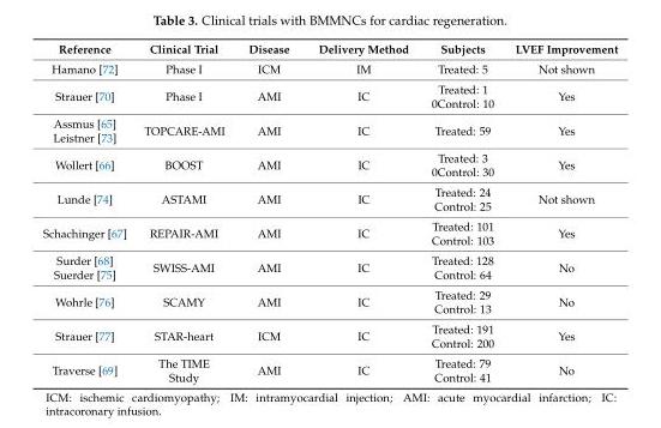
<table><thead><tr><td>Reference</td><td>Clinical Trial</td><td>Disease</td><td>Delivery Method</td><td>Subjects</td><td>LVEF Improvement</td></tr></thead><tbody><tr><td>Hamano [72]</td><td>Phase I</td><td>ICM</td><td>IM</td><td>Treated: 5</td><td>Not shown</td></tr><tr><td>Strauer [70]</td><td>Phase I</td><td>AMI</td><td>IC</td><td>Treated: 1 0Control: 10</td><td>Yes</td></tr><tr><td>Assmus [65] Leistner [73]</td><td>TOPCARE-AMI</td><td>AMI</td><td>IC</td><td>Treated: 59</td><td>Yes</td></tr><tr><td>Wollert [66]</td><td>BOOST</td><td>AMI</td><td>IC</td><td>Treated: 3 0Control: 30</td><td>Yes</td></tr><tr><td>Lunde [74]</td><td>ASTAMI</td><td>AMI</td><td>IC</td><td>Treated: 24 Control: 25</td><td>Not shown</td></tr><tr><td>Schachinger [67]</td><td>REPAIR-AMI</td><td>AMI</td><td>IC</td><td>Treated: 101 Control: 103</td><td>Yes</td></tr><tr><td>Surder [68] Suerder [75]</td><td>SWISS-AMI</td><td>AMI</td><td>IC</td><td>Treated: 128 Control: 64</td><td>No</td></tr><tr><td>Wohrle [76]</td><td>SCAMY</td><td>AMI</td><td>IC</td><td>Treated: 29 Control: 13</td><td>No</td></tr><tr><td>Strauer [77]</td><td>STAR-heart</td><td>ICM</td><td>IC</td><td>Treated: 191 Control: 200</td><td>Yes</td></tr><tr><td>Traverse [69]</td><td>The TIME Study</td><td>AMI</td><td>IC</td><td>Treated: 79 Control: 41</td><td>No</td></tr></tbody></table>